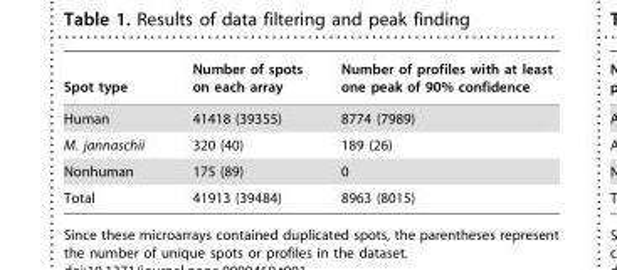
<table><thead><tr><td>Spot type</td><td>Number of spots on each array</td><td>Number of profiles with at least one peak of 90% confidence</td></tr></thead><tbody><tr><td>Human</td><td>41418 (39355)</td><td>8774 (7989)</td></tr><tr><td>M. jannaschii</td><td>320 (40)</td><td>189 (26)</td></tr><tr><td>Nonhuman</td><td>175 (89)</td><td>0</td></tr><tr><td>Total</td><td>41913 (39484)</td><td>8963 (8015)</td></tr></tbody></table>